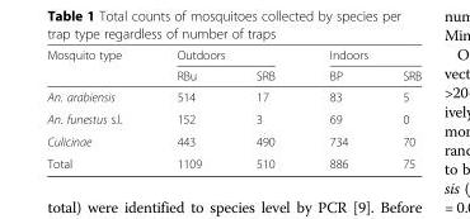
<table><thead><tr><td rowspan="2">Mosquito type</td><td colspan="2">Outdoors</td><td colspan="2">Indoors</td></tr><tr><td>RBu</td><td>SRB</td><td>BP</td><td>SRB</td></tr></thead><tbody><tr><td>An. arabiensis</td><td>514</td><td>17</td><td>83</td><td>5</td></tr><tr><td>An. funestus s.l.</td><td>152</td><td>3</td><td>69</td><td>0</td></tr><tr><td>Culicinae</td><td>443</td><td>490</td><td>734</td><td>70</td></tr><tr><td>Total</td><td>1109</td><td>510</td><td>886</td><td>75</td></tr></tbody></table>